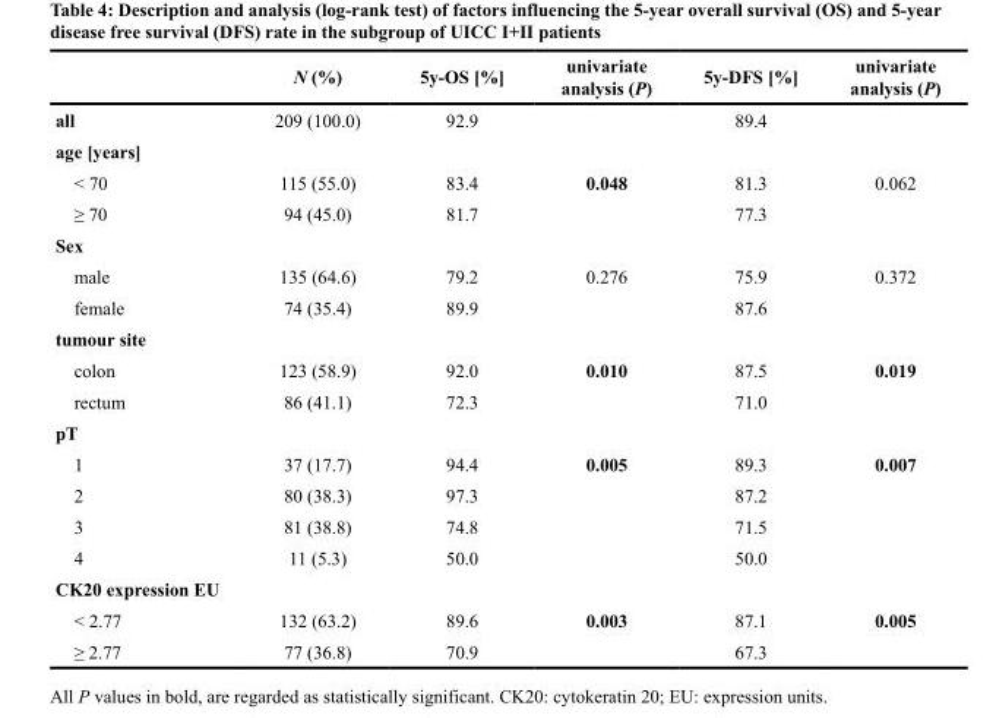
<table><thead><tr><td></td><td>N (%)</td><td>5y-OS [%]</td><td>univariate analysis (P)</td><td>5y-DFS [%]</td><td>univariate analysis (P)</td></tr></thead><tbody><tr><td>all</td><td>209 (100.0)</td><td>92.9</td><td></td><td>89.4</td><td></td></tr><tr><td colspan="6">age [years]</td></tr><tr><td>&lt; 70</td><td>115 (55.0)</td><td>83.4</td><td>0.048</td><td>81.3</td><td>0.062</td></tr><tr><td>≥ 70</td><td>94 (45.0)</td><td>81.7</td><td></td><td>77.3</td><td></td></tr><tr><td colspan="6">Sex</td></tr><tr><td>male</td><td>135 (64.6)</td><td>79.2</td><td>0.276</td><td>75.9</td><td>0.372</td></tr><tr><td>female</td><td>74 (35.4)</td><td>89.9</td><td></td><td>87.6</td><td></td></tr><tr><td colspan="6">tumour site</td></tr><tr><td>colon</td><td>123 (58.9)</td><td>92.0</td><td>0.010</td><td>87.5</td><td>0.019</td></tr><tr><td>rectum</td><td>86 (41.1)</td><td>72.3</td><td></td><td>71.0</td><td></td></tr><tr><td colspan="6">pT</td></tr><tr><td>1</td><td>37 (17.7)</td><td>94.4</td><td>0.005</td><td>89.3</td><td>0.007</td></tr><tr><td>2</td><td>80 (38.3)</td><td>97.3</td><td></td><td>87.2</td><td></td></tr><tr><td>3</td><td>81 (38.8)</td><td>74.8</td><td></td><td>71.5</td><td></td></tr><tr><td>4</td><td>11 (5.3)</td><td>50.0</td><td></td><td>50.0</td><td></td></tr><tr><td colspan="6">CK20 expression EU</td></tr><tr><td>&lt; 2.77</td><td>132 (63.2)</td><td>89.6</td><td>0.003</td><td>87.1</td><td>0.005</td></tr><tr><td>≥ 2.77</td><td>77 (36.8)</td><td>70.9</td><td></td><td>67.3</td><td></td></tr></tbody></table>